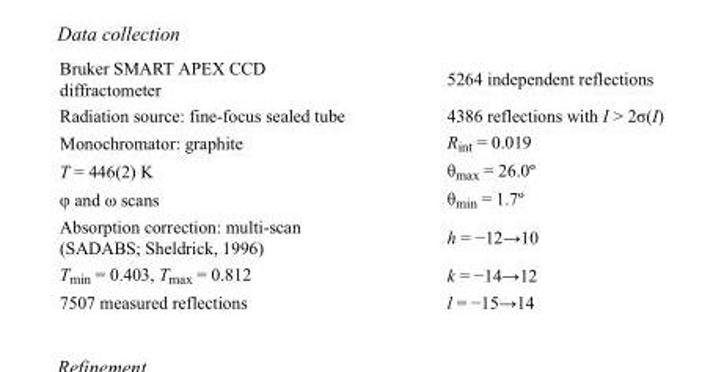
<table><tbody><tr><td>Bruker SMART APEX CCD diffractometer</td><td>5264 independent reflections</td></tr><tr><td>Radiation source: fine-focus sealed tube</td><td>4386 reflections with I &gt; 2σ(I)</td></tr><tr><td>Monochromator: graphite</td><td>R<sub>int</sub> = 0.019</td></tr><tr><td>T = 446(2) K</td><td>θ<sub>max</sub> = 26.0º</td></tr><tr><td>φ and ω scans</td><td>θ<sub>min</sub> = 1.7º</td></tr><tr><td>Absorption correction: multi-scan (SADABS; Sheldrick, 1996)</td><td>h = −12→10</td></tr><tr><td>T<sub>min</sub> = 0.403, T<sub>max</sub> = 0.812</td><td>k = −14→12</td></tr><tr><td>7507 measured reflections</td><td>l = −15→14</td></tr></tbody></table>